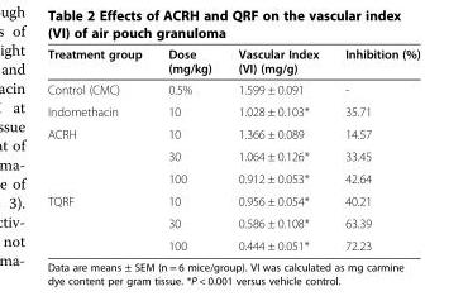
<table><thead><tr><td>Treatment group</td><td>Dose (mg/kg)</td><td>Vascular Index (VI) (mg/g)</td><td>Inhibition (%)</td></tr></thead><tbody><tr><td>Control (CMC)</td><td>0.5%</td><td>1.599 ± 0.091</td><td>-</td></tr><tr><td>Indomethacin</td><td>10</td><td>1.028 ± 0.103*</td><td>35.71</td></tr><tr><td rowspan="3">ACRH</td><td>10</td><td>1.366 ± 0.089</td><td>14.57</td></tr><tr><td>30</td><td>1.064 ± 0.126*</td><td>33.45</td></tr><tr><td>100</td><td>0.912 ± 0.053*</td><td>42.64</td></tr><tr><td rowspan="3">TQRF</td><td>10</td><td>0.956 ± 0.054*</td><td>40.21</td></tr><tr><td>30</td><td>0.586 ± 0.108*</td><td>63.39</td></tr><tr><td>100</td><td>0.444 ± 0.051*</td><td>72.23</td></tr></tbody></table>